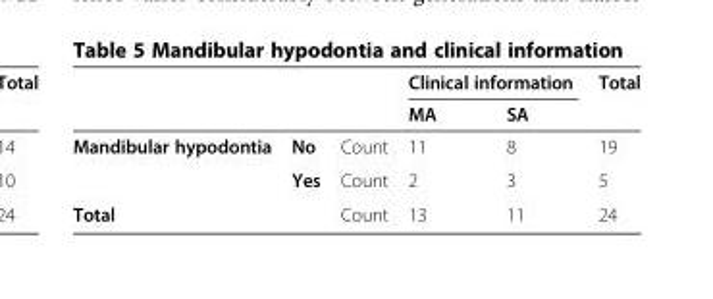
<table><thead><tr><td rowspan="2"></td><td rowspan="2"></td><td rowspan="2"></td><td colspan="2">Clinical information</td><td rowspan="2">Total</td></tr><tr><td>MA</td><td>SA</td></tr></thead><tbody><tr><td rowspan="2">Mandibular hypodontia</td><td>No</td><td>Count</td><td>11</td><td>8</td><td>19</td></tr><tr><td>Yes</td><td>Count</td><td>2</td><td>3</td><td>5</td></tr><tr><td colspan="2">Total</td><td>Count</td><td>13</td><td>11</td><td>24</td></tr></tbody></table>